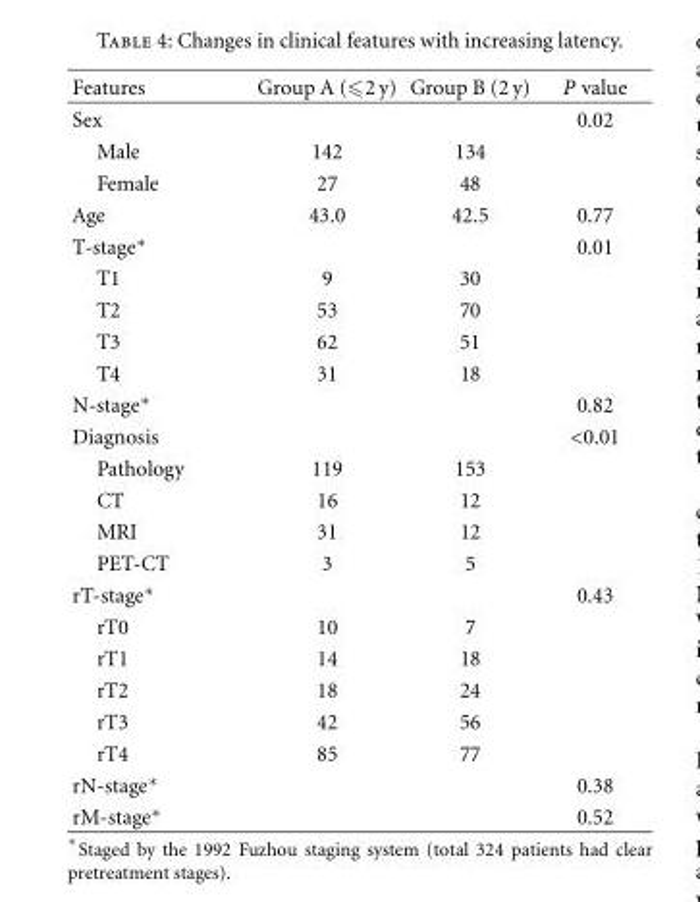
<table><thead><tr><td>Features</td><td>Group A (⩽2 y)</td><td>Group B (2 y)</td><td>P value</td></tr></thead><tbody><tr><td>Sex</td><td></td><td></td><td>0.02</td></tr><tr><td>Male</td><td>142</td><td>134</td><td></td></tr><tr><td>Female</td><td>27</td><td>48</td><td></td></tr><tr><td>Age</td><td>43.0</td><td>42.5</td><td>0.77</td></tr><tr><td>T-stage∗</td><td></td><td></td><td>0.01</td></tr><tr><td>T1</td><td>9</td><td>30</td><td></td></tr><tr><td>T2</td><td>53</td><td>70</td><td></td></tr><tr><td>T3</td><td>62</td><td>51</td><td></td></tr><tr><td>T4</td><td>31</td><td>18</td><td></td></tr><tr><td>N-stage∗</td><td></td><td></td><td>0.82</td></tr><tr><td>Diagnosis</td><td></td><td></td><td>&lt;0.01</td></tr><tr><td>Pathology</td><td>119</td><td>153</td><td></td></tr><tr><td>CT</td><td>16</td><td>12</td><td></td></tr><tr><td>MRI</td><td>31</td><td>12</td><td></td></tr><tr><td>PET-CT</td><td>3</td><td>5</td><td></td></tr><tr><td>rT-stage∗</td><td></td><td></td><td>0.43</td></tr><tr><td>rT0</td><td>10</td><td>7</td><td></td></tr><tr><td>rT1</td><td>14</td><td>18</td><td></td></tr><tr><td>rT2</td><td>18</td><td>24</td><td></td></tr><tr><td>rT3</td><td>42</td><td>56</td><td></td></tr><tr><td>rT4</td><td>85</td><td>77</td><td></td></tr><tr><td>rN-stage∗</td><td></td><td></td><td>0.38</td></tr><tr><td>rM-stage∗</td><td></td><td></td><td>0.52</td></tr></tbody></table>